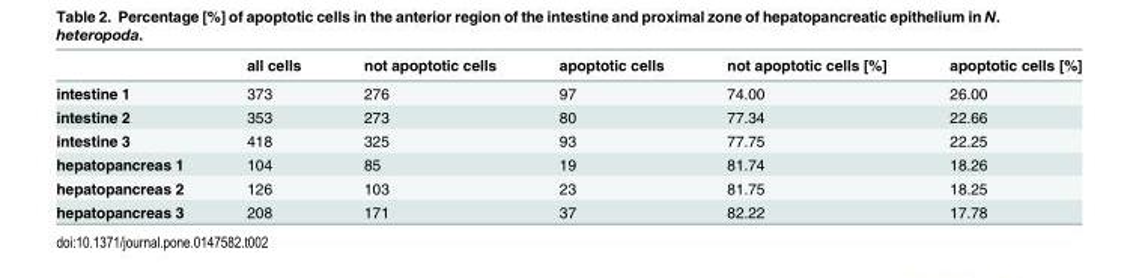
<table><thead><tr><td></td><td>all cells</td><td>not apoptotic cells</td><td>apoptotic cells</td><td>not apoptotic cells [%]</td><td>apoptotic cells [%]</td></tr></thead><tbody><tr><td>intestine 1</td><td>373</td><td>276</td><td>97</td><td>74.00</td><td>26.00</td></tr><tr><td>intestine 2</td><td>353</td><td>273</td><td>80</td><td>77.34</td><td>22.66</td></tr><tr><td>intestine 3</td><td>418</td><td>325</td><td>93</td><td>77.75</td><td>22.25</td></tr><tr><td>hepatopancreas 1</td><td>104</td><td>85</td><td>19</td><td>81.74</td><td>18.26</td></tr><tr><td>hepatopancreas 2</td><td>126</td><td>103</td><td>23</td><td>81.75</td><td>18.25</td></tr><tr><td>hepatopancreas 3</td><td>208</td><td>171</td><td>37</td><td>82.22</td><td>17.78</td></tr></tbody></table>